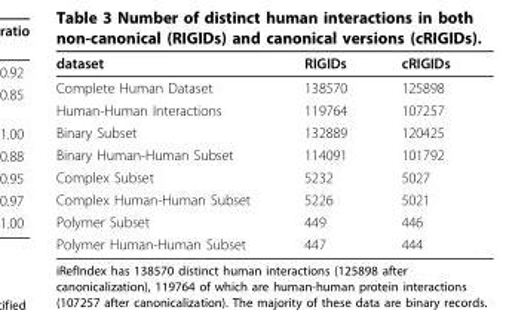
<table><thead><tr><td>dataset</td><td>RIGIDs</td><td>cRIGIDs</td></tr></thead><tbody><tr><td>Complete Human Dataset</td><td>138570</td><td>125898</td></tr><tr><td>Human-Human Interactions</td><td>119764</td><td>107257</td></tr><tr><td>Binary Subset</td><td>132889</td><td>120425</td></tr><tr><td>Binary Human-Human Subset</td><td>114091</td><td>101792</td></tr><tr><td>Complex Subset</td><td>5232</td><td>5027</td></tr><tr><td>Complex Human-Human Subset</td><td>5226</td><td>5021</td></tr><tr><td>Polymer Subset</td><td>449</td><td>446</td></tr><tr><td>Polymer Human-Human Subset</td><td>447</td><td>444</td></tr></tbody></table>